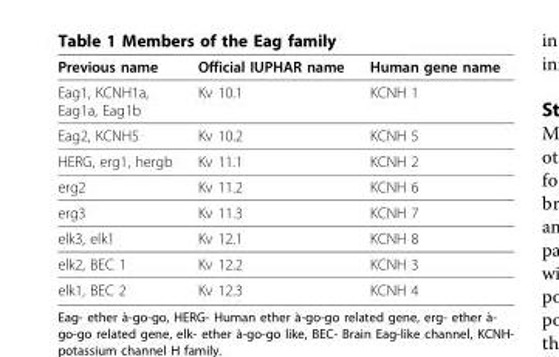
<table><thead><tr><td>Previous name</td><td>Official IUPHAR name</td><td>Human gene name</td></tr></thead><tbody><tr><td>Eag1, KCNH1a, Eag1a, Eag1b</td><td>Kv 10.1</td><td>KCNH 1</td></tr><tr><td>Eag2, KCNH5</td><td>Kv 10.2</td><td>KCNH 5</td></tr><tr><td>HERG, erg1, hergb</td><td>Kv 11.1</td><td>KCNH 2</td></tr><tr><td>erg2</td><td>Kv 11.2</td><td>KCNH 6</td></tr><tr><td>erg3</td><td>Kv 11.3</td><td>KCNH 7</td></tr><tr><td>elk3, elk1</td><td>Kv 12.1</td><td>KCNH 8</td></tr><tr><td>elk2, BEC 1</td><td>Kv 12.2</td><td>KCNH 3</td></tr><tr><td>elk1, BEC 2</td><td>Kv 12.3</td><td>KCNH 4</td></tr></tbody></table>